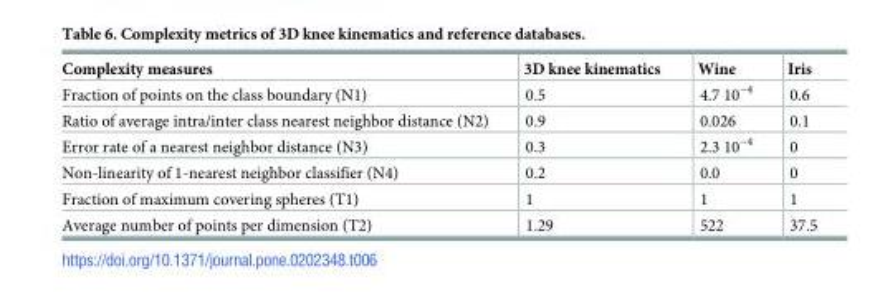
<table><thead><tr><td>Complexity measures</td><td>3D knee kinematics</td><td>Wine</td><td>Iris</td></tr></thead><tbody><tr><td>Fraction of points on the class boundary (N1)</td><td>0.5</td><td>4.7 10<sup>−4</sup></td><td>0.6</td></tr><tr><td>Ratio of average intra/inter class nearest neighbor distance (N2)</td><td>0.9</td><td>0.026</td><td>0.1</td></tr><tr><td>Error rate of a nearest neighbor distance (N3)</td><td>0.3</td><td>2.3 10<sup>−4</sup></td><td>0</td></tr><tr><td>Non-linearity of 1-nearest neighbor classifier (N4)</td><td>0.2</td><td>0.0</td><td>0</td></tr><tr><td>Fraction of maximum covering spheres (T1)</td><td>1</td><td>1</td><td>1</td></tr><tr><td>Average number of points per dimension (T2)</td><td>1.29</td><td>522</td><td>37.5</td></tr></tbody></table>